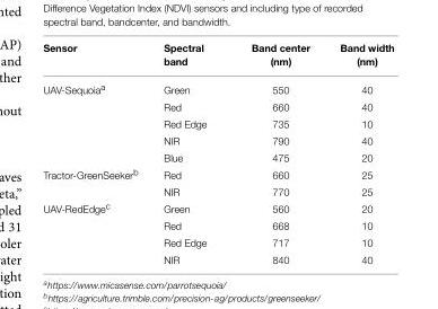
<table><thead><tr><td>Sensor</td><td>Spectral band</td><td>Band center (nm)</td><td>Band width (nm)</td></tr></thead><tbody><tr><td rowspan="5">UAV-Sequoia<sup>a</sup></td><td>Green</td><td>550</td><td>40</td></tr><tr><td>Red</td><td>660</td><td>40</td></tr><tr><td>Red Edge</td><td>735</td><td>10</td></tr><tr><td>NIR</td><td>790</td><td>40</td></tr><tr><td>Blue</td><td>475</td><td>20</td></tr><tr><td rowspan="2">Tractor-GreenSeeker<sup>b</sup></td><td>Red</td><td>660</td><td>25</td></tr><tr><td>NIR</td><td>770</td><td>25</td></tr><tr><td rowspan="4">UAV-RedEdge<sup>c</sup></td><td>Green</td><td>560</td><td>20</td></tr><tr><td>Red</td><td>668</td><td>10</td></tr><tr><td>Red Edge</td><td>717</td><td>10</td></tr><tr><td>NIR</td><td>840</td><td>40</td></tr></tbody></table>